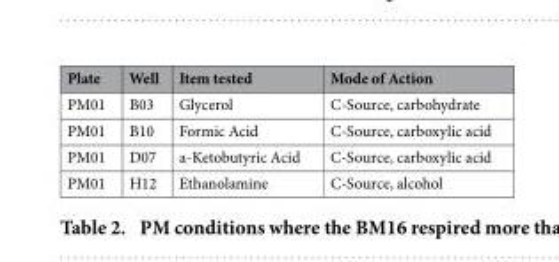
<table><thead><tr><td>Plate</td><td>Well</td><td>Item tested</td><td>Mode of Action</td></tr></thead><tbody><tr><td>PM01</td><td>B03</td><td>Glycerol</td><td>C-Source, carbohydrate</td></tr><tr><td>PM01</td><td>B10</td><td>Formic Acid</td><td>C-Source, carboxylic acid</td></tr><tr><td>PM01</td><td>D07</td><td>a-Ketobutyric Acid</td><td>C-Source, carboxylic acid</td></tr><tr><td>PM01</td><td>H12</td><td>Ethanolamine</td><td>C-Source, alcohol</td></tr></tbody></table>